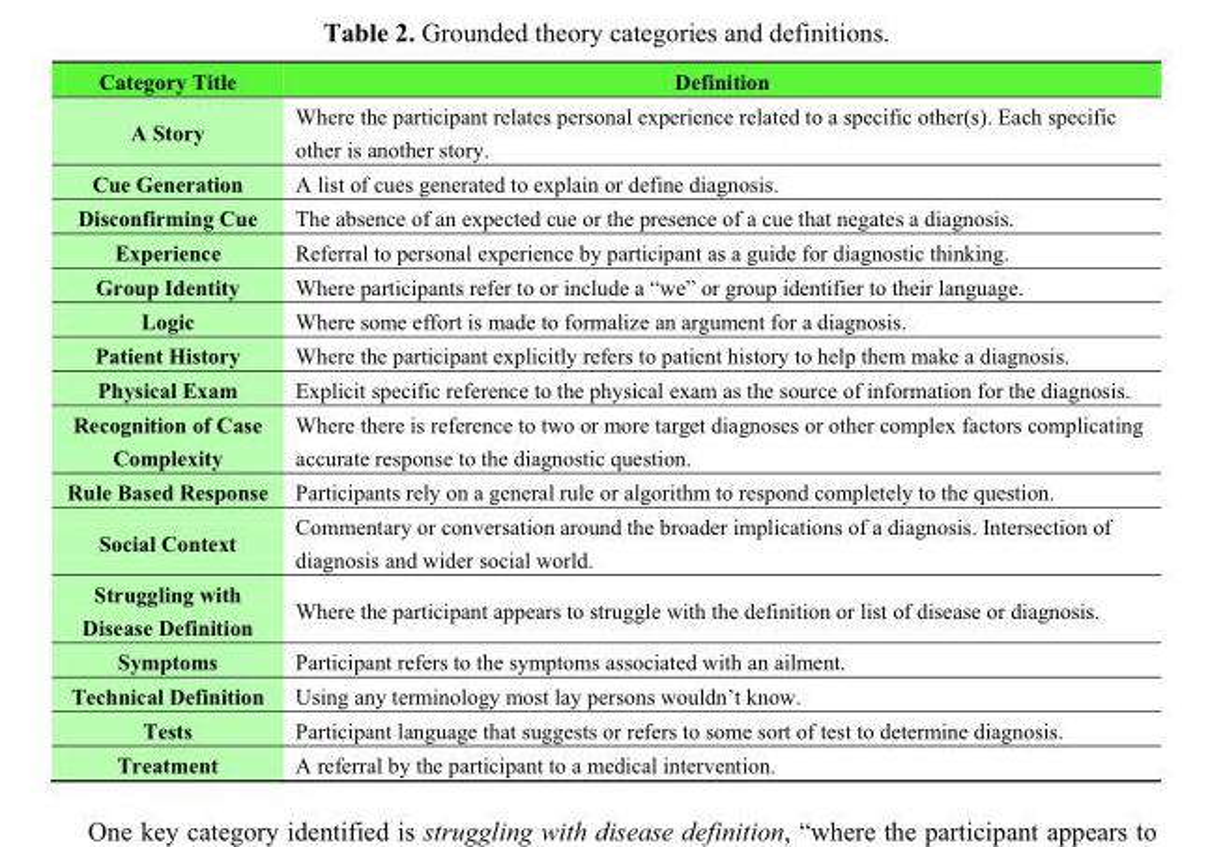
<table><thead><tr><td>Category Title</td><td>Definition</td></tr></thead><tbody><tr><td>A Story</td><td>Where the participant relates personal experience related to a specific other(s). Each specific other is another story.</td></tr><tr><td>Cue Generation</td><td>A list of cues generated to explain or define diagnosis.</td></tr><tr><td>Disconfirming Cue</td><td>The absence of an expected cue or the presence of a cue that negates a diagnosis.</td></tr><tr><td>Experience</td><td>Referral to personal experience by participant as a guide for diagnostic thinking.</td></tr><tr><td>Group Identity</td><td>Where participants refer to or include a “we” or group identifier to their language.</td></tr><tr><td>Logic</td><td>Where some effort is made to formalize an argument for a diagnosis.</td></tr><tr><td>Patient History</td><td>Where the participant explicitly refers to patient history to help them make a diagnosis.</td></tr><tr><td>Physical Exam</td><td>Explicit specific reference to the physical exam as the source of information for the diagnosis.</td></tr><tr><td>Recognition of Case Complexity</td><td>Where there is reference to two or more target diagnoses or other complex factors complicating accurate response to the diagnostic question.</td></tr><tr><td>Rule Based Response</td><td>Participants rely on a general rule or algorithm to respond completely to the question.</td></tr><tr><td>Social Context</td><td>Commentary or conversation around the broader implications of a diagnosis. Intersection of diagnosis and wider social world.</td></tr><tr><td>Struggling with Disease Definition</td><td>Where the participant appears to struggle with the definition or list of disease or diagnosis.</td></tr><tr><td>Symptoms</td><td>Participant refers to the symptoms associated with an ailment.</td></tr><tr><td>Technical Definition</td><td>Using any terminology most lay persons wouldn’t know.</td></tr><tr><td>Tests</td><td>Participant language that suggests or refers to some sort of test to determine diagnosis.</td></tr><tr><td>Treatment</td><td>A referral by the participant to a medical intervention.</td></tr></tbody></table>